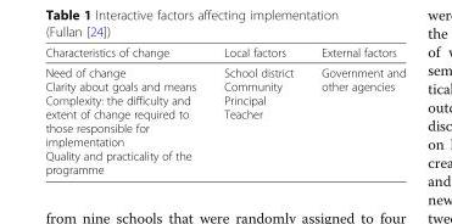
<table><thead><tr><td>Characteristics of change</td><td>Local factors</td><td>External factors</td></tr></thead><tbody><tr><td>Need of change Clarity about goals and means Complexity: the difficulty and extent of change required to those responsible for implementation Quality and practicality of the programme</td><td>School district Community Principal Teacher</td><td>Government and other agencies</td></tr></tbody></table>